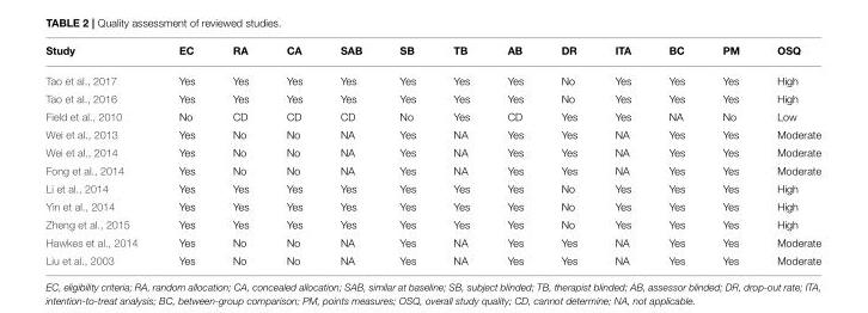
<table><thead><tr><td>Study</td><td>EC</td><td>RA</td><td>CA</td><td>SAB</td><td>SB</td><td>TB</td><td>AB</td><td>DR</td><td>ITA</td><td>BC</td><td>PM</td><td>OSQ</td></tr></thead><tbody><tr><td>Tao et al., 2017</td><td>Yes</td><td>Yes</td><td>Yes</td><td>Yes</td><td>Yes</td><td>Yes</td><td>Yes</td><td>No</td><td>Yes</td><td>Yes</td><td>Yes</td><td>High</td></tr><tr><td>Tao et al., 2016</td><td>Yes</td><td>Yes</td><td>Yes</td><td>Yes</td><td>Yes</td><td>Yes</td><td>Yes</td><td>No</td><td>Yes</td><td>Yes</td><td>Yes</td><td>High</td></tr><tr><td>Field et al., 2010</td><td>No</td><td>CD</td><td>CD</td><td>CD</td><td>No</td><td>Yes</td><td>CD</td><td>Yes</td><td>Yes</td><td>NA</td><td>No</td><td>Low</td></tr><tr><td>Wei et al., 2013</td><td>Yes</td><td>No</td><td>No</td><td>NA</td><td>Yes</td><td>NA</td><td>Yes</td><td>Yes</td><td>NA</td><td>Yes</td><td>Yes</td><td>Moderate</td></tr><tr><td>Wei et al., 2014</td><td>Yes</td><td>No</td><td>No</td><td>NA</td><td>Yes</td><td>NA</td><td>Yes</td><td>Yes</td><td>NA</td><td>Yes</td><td>Yes</td><td>Moderate</td></tr><tr><td>Fong et al., 2014</td><td>Yes</td><td>No</td><td>No</td><td>NA</td><td>Yes</td><td>NA</td><td>Yes</td><td>Yes</td><td>NA</td><td>Yes</td><td>Yes</td><td>Moderate</td></tr><tr><td>Li et al., 2014</td><td>Yes</td><td>Yes</td><td>Yes</td><td>Yes</td><td>Yes</td><td>Yes</td><td>Yes</td><td>No</td><td>Yes</td><td>Yes</td><td>Yes</td><td>High</td></tr><tr><td>Yin et al., 2014</td><td>Yes</td><td>Yes</td><td>Yes</td><td>Yes</td><td>Yes</td><td>Yes</td><td>Yes</td><td>No</td><td>Yes</td><td>Yes</td><td>Yes</td><td>High</td></tr><tr><td>Zheng et al., 2015</td><td>Yes</td><td>Yes</td><td>Yes</td><td>Yes</td><td>Yes</td><td>Yes</td><td>Yes</td><td>No</td><td>Yes</td><td>Yes</td><td>Yes</td><td>High</td></tr><tr><td>Hawkes et al., 2014</td><td>Yes</td><td>No</td><td>No</td><td>NA</td><td>Yes</td><td>NA</td><td>Yes</td><td>Yes</td><td>NA</td><td>Yes</td><td>Yes</td><td>Moderate</td></tr><tr><td>Liu et al., 2003</td><td>Yes</td><td>No</td><td>No</td><td>NA</td><td>Yes</td><td>NA</td><td>Yes</td><td>Yes</td><td>NA</td><td>Yes</td><td>Yes</td><td>Moderate</td></tr></tbody></table>